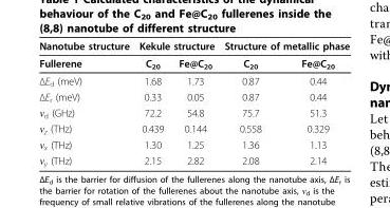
<table><thead><tr><td rowspan="2">Nanotube structure Fullerene</td><td colspan="2">Kekule structure</td><td colspan="2">Structure of metallic phase</td></tr><tr><td>C20</td><td>Fe@C20</td><td>C20</td><td>Fe@C20</td></tr></thead><tbody><tr><td>ΔE<sub>d</sub> (meV)</td><td>1.68</td><td>1.73</td><td>0.87</td><td>0.44</td></tr><tr><td>ΔE<sub>r</sub> (meV)</td><td>0.33</td><td>0.05</td><td>0.87</td><td>0.44</td></tr><tr><td>ν<sub>d</sub> (GHz)</td><td>72.2</td><td>54.8</td><td>75.7</td><td>51.3</td></tr><tr><td>ν<sub>z</sub> (THz)</td><td>0.439</td><td>0.144</td><td>0.558</td><td>0.329</td></tr><tr><td>ν<sub>x</sub> (THz)</td><td>1.30</td><td>1.25</td><td>1.36</td><td>1.13</td></tr><tr><td>ν<sub>y</sub> (THz)</td><td>2.15</td><td>2.82</td><td>2.08</td><td>2.14</td></tr></tbody></table>